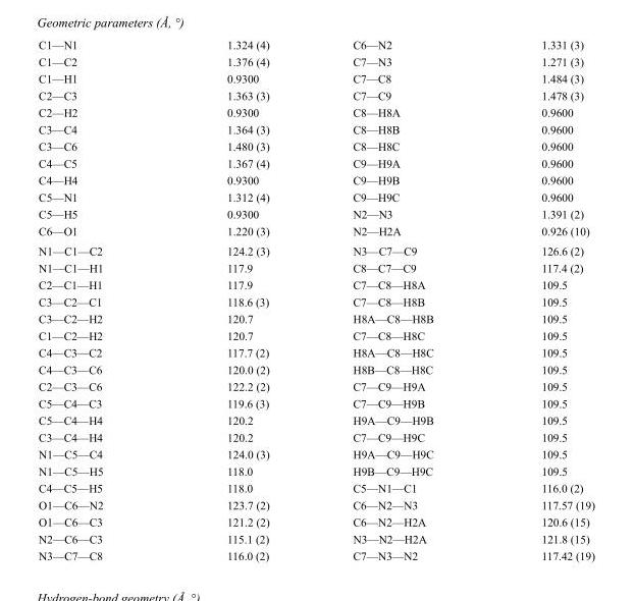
<table><tbody><tr><td>C1—N1</td><td>1.324 (4)</td><td>C6—N2</td><td>1.331 (3)</td></tr><tr><td>C1—C2</td><td>1.376 (4)</td><td>C7—N3</td><td>1.271 (3)</td></tr><tr><td>C1—H1</td><td>0.9300</td><td>C7—C8</td><td>1.484 (3)</td></tr><tr><td>C2—C3</td><td>1.363 (3)</td><td>C7—C9</td><td>1.478 (3)</td></tr><tr><td>C2—H2</td><td>0.9300</td><td>C8—H8A</td><td>0.9600</td></tr><tr><td>C3—C4</td><td>1.364 (3)</td><td>C8—H8B</td><td>0.9600</td></tr><tr><td>C3—C6</td><td>1.480 (3)</td><td>C8—H8C</td><td>0.9600</td></tr><tr><td>C4—C5</td><td>1.367 (4)</td><td>C9—H9A</td><td>0.9600</td></tr><tr><td>C4—H4</td><td>0.9300</td><td>C9—H9B</td><td>0.9600</td></tr><tr><td>C5—N1</td><td>1.312 (4)</td><td>C9—H9C</td><td>0.9600</td></tr><tr><td>C5—H5</td><td>0.9300</td><td>N2—N3</td><td>1.391 (2)</td></tr><tr><td>C6—O1</td><td>1.220 (3)</td><td>N2—H2A</td><td>0.926 (10)</td></tr><tr><td>N1—C1—C2</td><td>124.2 (3)</td><td>N3—C7—C9</td><td>126.6 (2)</td></tr><tr><td>N1—C1—H1</td><td>117.9</td><td>C8—C7—C9</td><td>117.4 (2)</td></tr><tr><td>C2—C1—H1</td><td>117.9</td><td>C7—C8—H8A</td><td>109.5</td></tr><tr><td>C3—C2—C1</td><td>118.6 (3)</td><td>C7—C8—H8B</td><td>109.5</td></tr><tr><td>C3—C2—H2</td><td>120.7</td><td>H8A—C8—H8B</td><td>109.5</td></tr><tr><td>C1—C2—H2</td><td>120.7</td><td>C7—C8—H8C</td><td>109.5</td></tr><tr><td>C4—C3—C2</td><td>117.7 (2)</td><td>H8A—C8—H8C</td><td>109.5</td></tr><tr><td>C4—C3—C6</td><td>120.0 (2)</td><td>H8B—C8—H8C</td><td>109.5</td></tr><tr><td>C2—C3—C6</td><td>122.2 (2)</td><td>C7—C9—H9A</td><td>109.5</td></tr><tr><td>C5—C4—C3</td><td>119.6 (3)</td><td>C7—C9—H9B</td><td>109.5</td></tr><tr><td>C5—C4—H4</td><td>120.2</td><td>H9A—C9—H9B</td><td>109.5</td></tr><tr><td>C3—C4—H4</td><td>120.2</td><td>C7—C9—H9C</td><td>109.5</td></tr><tr><td>N1—C5—C4</td><td>124.0 (3)</td><td>H9A—C9—H9C</td><td>109.5</td></tr><tr><td>N1—C5—H5</td><td>118.0</td><td>H9B—C9—H9C</td><td>109.5</td></tr><tr><td>C4—C5—H5</td><td>118.0</td><td>C5—N1—C1</td><td>116.0 (2)</td></tr><tr><td>O1—C6—N2</td><td>123.7 (2)</td><td>C6—N2—N3</td><td>117.57 (19)</td></tr><tr><td>O1—C6—C3</td><td>121.2 (2)</td><td>C6—N2—H2A</td><td>120.6 (15)</td></tr><tr><td>N2—C6—C3</td><td>115.1 (2)</td><td>N3—N2—H2A</td><td>121.8 (15)</td></tr><tr><td>N3—C7—C8</td><td>116.0 (2)</td><td>C7—N3—N2</td><td>117.42 (19)</td></tr></tbody></table>